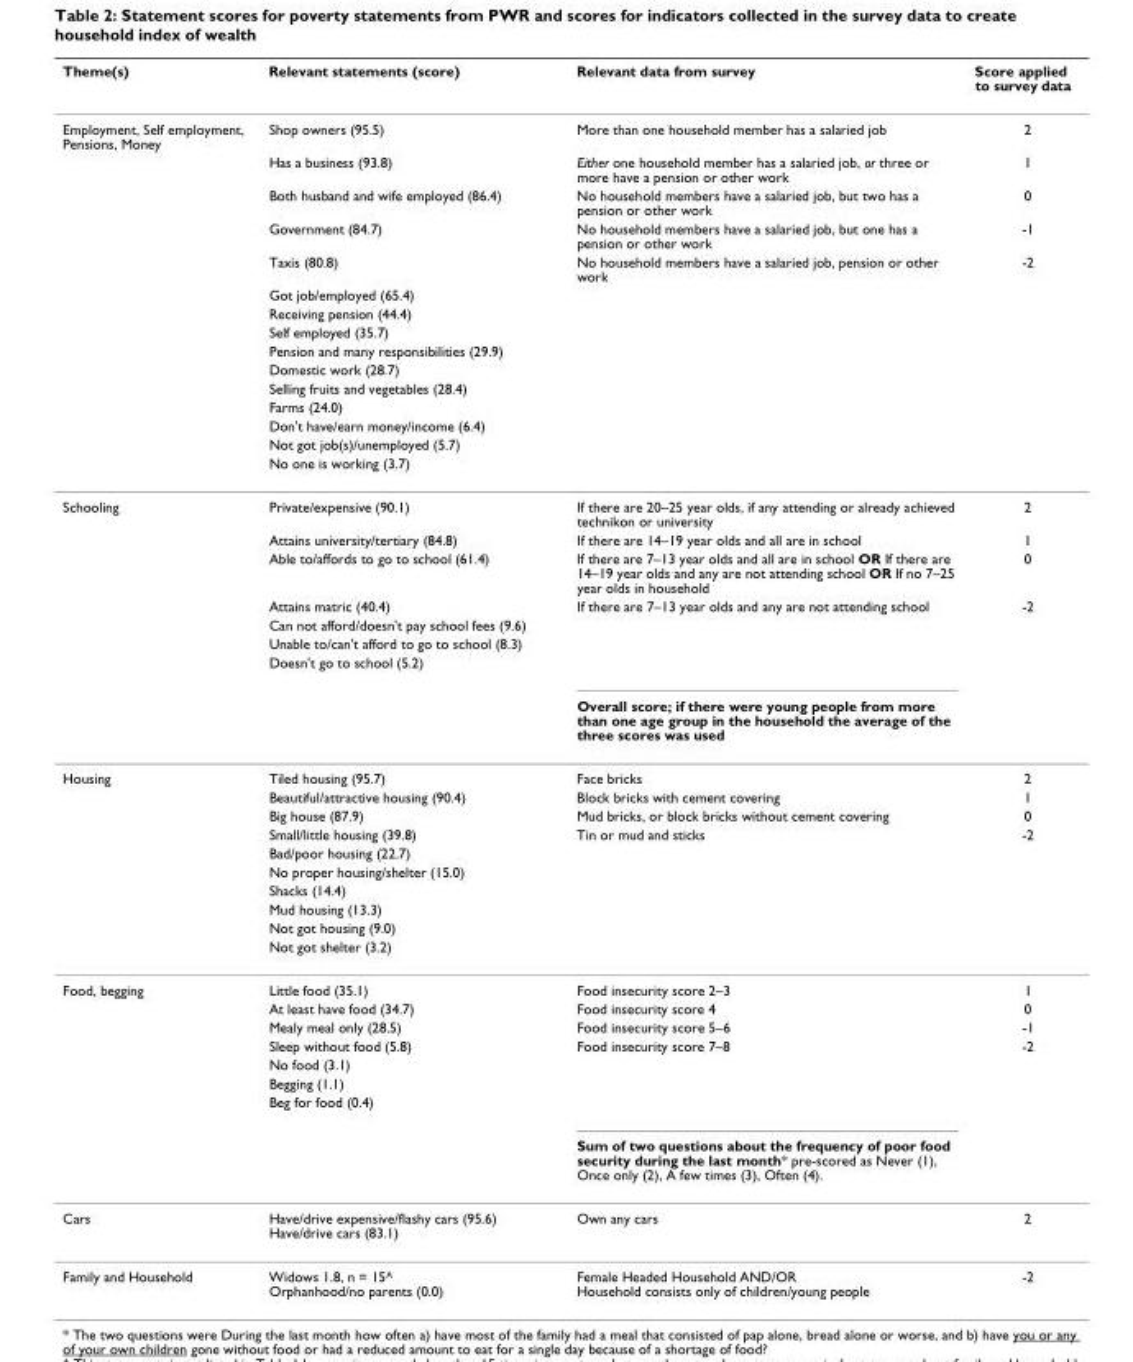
<table><thead><tr><td>Theme(s)</td><td>Relevant statements (score)</td><td>Relevant data from survey</td><td>Score applied to survey data</td></tr></thead><tbody><tr><td rowspan="15">Employment, Self employment, Pensions, Money</td><td>Shop owners (95.5)</td><td>More than one household member has a salaried job</td><td>2</td></tr><tr><td>Has a business (93.8)</td><td>Either one household member has a salaried job, or three or more have a pension or other work</td><td>1</td></tr><tr><td>Both husband and wife employed (86.4)</td><td>No household members have a salaried job, but two has a pension or other work</td><td>0</td></tr><tr><td>Government (84.7)</td><td>No household members have a salaried job, but one has a pension or other work</td><td>-1</td></tr><tr><td>Taxis (80.8)</td><td>No household members have a salaried job, pension or other work</td><td>-2</td></tr><tr><td>Got job/employed (65.4)</td><td></td><td></td></tr><tr><td>Receiving pension (44.4)</td><td></td><td></td></tr><tr><td>Self employed (35.7)</td><td></td><td></td></tr><tr><td>Pension and many responsibilities (29.9)</td><td></td><td></td></tr><tr><td>Domestic work (28.7)</td><td></td><td></td></tr><tr><td>Selling fruits and vegetables (28.4)</td><td></td><td></td></tr><tr><td>Farms (24.0)</td><td></td><td></td></tr><tr><td>Don&#x27;t have/earn money/income (6.4)</td><td></td><td></td></tr><tr><td>Not got job(s)/unemployed (5.7)</td><td></td><td></td></tr><tr><td>No one is working (3.7)</td><td></td><td></td></tr><tr><td rowspan="8">Schooling</td><td>Private/expensive (90.1)</td><td>If there are 20–25 year olds, if any attending or already achieved technikon or university</td><td>2</td></tr><tr><td>Attains university/tertiary (84.8)</td><td>If there are 14–19 year olds and all are in school</td><td>1</td></tr><tr><td>Able to/affords to go to school (61.4)</td><td>If there are 7–13 year olds and all are in school OR If there are 14–19 year olds and any are not attending school OR If no 7–25 year olds in household</td><td>0</td></tr><tr><td>Attains matric (40.4)</td><td>If there are 7–13 year olds and any are not attending school</td><td>-2</td></tr><tr><td>Can not afford/doesn&#x27;t pay school fees (9.6)</td><td></td><td></td></tr><tr><td>Unable to/can&#x27;t afford to go to school (8.3)</td><td></td><td></td></tr><tr><td>Doesn&#x27;t go to school (5.2)</td><td></td><td></td></tr><tr><td></td><td>Overall score; if there were young people from more than one age group in the household the average of the three scores was used</td><td></td></tr><tr><td rowspan="10">Housing</td><td>Tiled housing (95.7)</td><td>Face bricks</td><td>2</td></tr><tr><td>Beautiful/attractive housing (90.4)</td><td>Block bricks with cement covering</td><td>1</td></tr><tr><td>Big house (87.9)</td><td>Mud bricks, or block bricks without cement covering</td><td>0</td></tr><tr><td>Small/little housing (39.8)</td><td>Tin or mud and sticks</td><td>-2</td></tr><tr><td>Bad/poor housing (22.7)</td><td></td><td></td></tr><tr><td>No proper housing/shelter (15.0)</td><td></td><td></td></tr><tr><td>Shacks (14.4)</td><td></td><td></td></tr><tr><td>Mud housing (13.3)</td><td></td><td></td></tr><tr><td>Not got housing (9.0)</td><td></td><td></td></tr><tr><td>Not got shelter (3.2)</td><td></td><td></td></tr><tr><td rowspan="8">Food, begging</td><td>Little food (35.1)</td><td>Food insecurity score 2–3</td><td>1</td></tr><tr><td>At least have food (34.7)</td><td>Food insecurity score 4</td><td>0</td></tr><tr><td>Mealy meal only (28.5)</td><td>Food insecurity score 5–6</td><td>-1</td></tr><tr><td>Sleep without food (5.8)</td><td>Food insecurity score 7–8</td><td>-2</td></tr><tr><td>No food (3.1)</td><td></td><td></td></tr><tr><td>Begging (1.1)</td><td></td><td></td></tr><tr><td>Beg for food (0.4)</td><td></td><td></td></tr><tr><td></td><td>Sum of two questions about the frequency of poor food security during the last month* pre-scored as Never (1), Once only (2), A few times (3), Often (4).</td><td></td></tr><tr><td>Cars</td><td>Have/drive expensive/flashy cars (95.6) Have/drive cars (83.1)</td><td>Own any cars</td><td>2</td></tr><tr><td>Family and Household</td><td>Widows 1.8, n = 15^ Orphanhood/no parents (0.0)</td><td>Female Headed Household AND/OR Household consists only of children/young people</td><td>-2</td></tr></tbody></table>